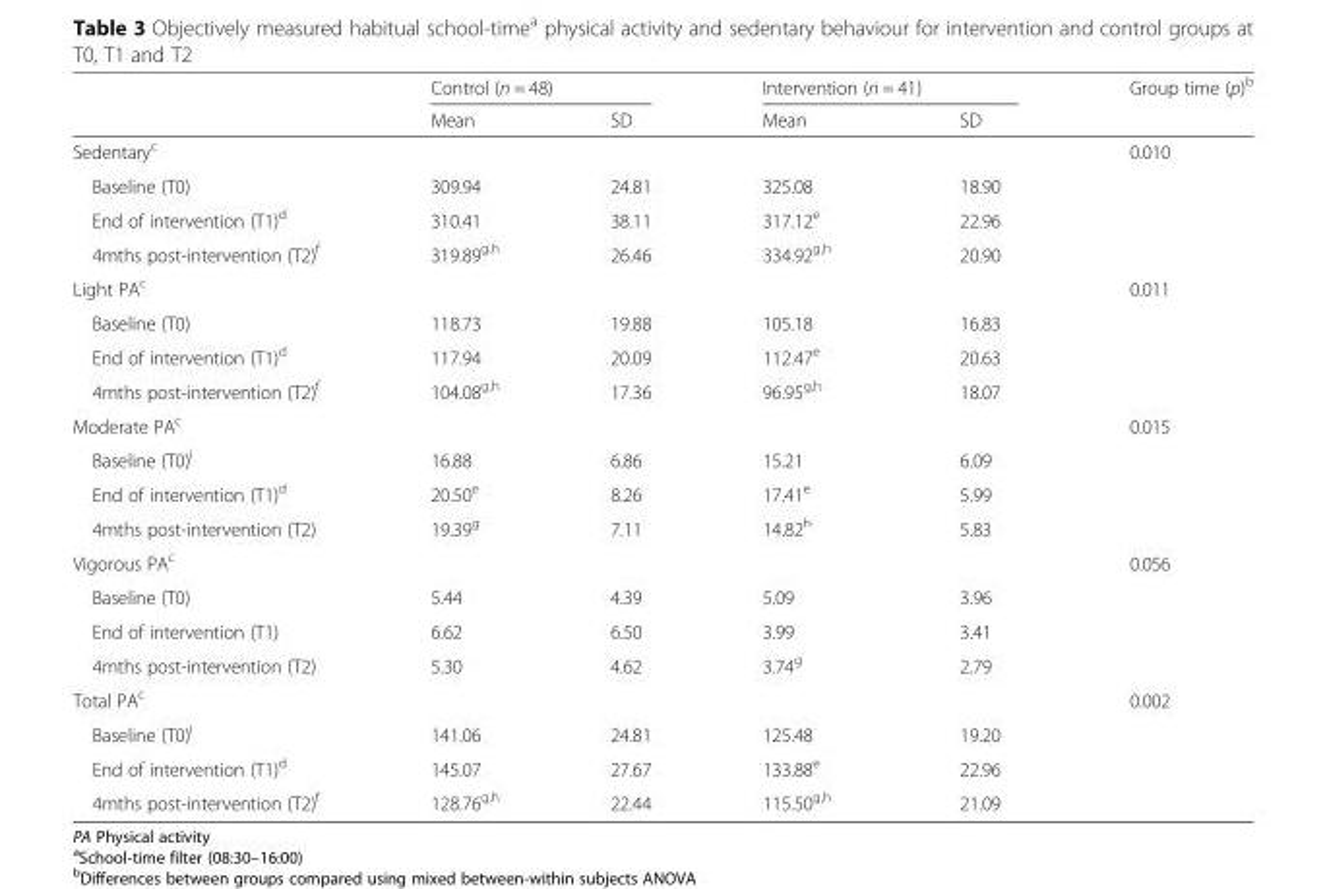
<table><thead><tr><td rowspan="2"></td><td colspan="2">Control (n = 48)</td><td colspan="2">Intervention (n = 41)</td><td rowspan="2">Group time (p)<sup>b</sup></td></tr><tr><td>Mean</td><td>SD</td><td>Mean</td><td>SD</td></tr></thead><tbody><tr><td colspan="5">Sedentary<sup>c</sup></td><td>0.010</td></tr><tr><td>Baseline (T0)</td><td>309.94</td><td>24.81</td><td>325.08</td><td>18.90</td><td></td></tr><tr><td>End of intervention (T1)<sup>d</sup></td><td>310.41</td><td>38.11</td><td>317.12<sup>e</sup></td><td>22.96</td><td></td></tr><tr><td>4mths post-intervention (T2)<sup>f</sup></td><td>319.89<sup>g,h</sup></td><td>26.46</td><td>334.92<sup>g,h</sup></td><td>20.90</td><td></td></tr><tr><td colspan="5">Light PA<sup>c</sup></td><td>0.011</td></tr><tr><td>Baseline (T0)</td><td>118.73</td><td>19.88</td><td>105.18</td><td>16.83</td><td></td></tr><tr><td>End of intervention (T1)<sup>d</sup></td><td>117.94</td><td>20.09</td><td>112.47<sup>e</sup></td><td>20.63</td><td></td></tr><tr><td>4mths post-intervention (T2)<sup>f</sup></td><td>104.08<sup>g,h</sup></td><td>17.36</td><td>96.95<sup>g,h</sup></td><td>18.07</td><td></td></tr><tr><td colspan="5">Moderate PA<sup>c</sup></td><td>0.015</td></tr><tr><td>Baseline (T0)<sup>i</sup></td><td>16.88</td><td>6.86</td><td>15.21</td><td>6.09</td><td></td></tr><tr><td>End of intervention (T1)<sup>d</sup></td><td>20.50<sup>e</sup></td><td>8.26</td><td>17.41<sup>e</sup></td><td>5.99</td><td></td></tr><tr><td>4mths post-intervention (T2)</td><td>19.39<sup>g</sup></td><td>7.11</td><td>14.82<sup>h</sup></td><td>5.83</td><td></td></tr><tr><td colspan="5">Vigorous PA<sup>c</sup></td><td>0.056</td></tr><tr><td>Baseline (T0)</td><td>5.44</td><td>4.39</td><td>5.09</td><td>3.96</td><td></td></tr><tr><td>End of intervention (T1)</td><td>6.62</td><td>6.50</td><td>3.99</td><td>3.41</td><td></td></tr><tr><td>4mths post-intervention (T2)</td><td>5.30</td><td>4.62</td><td>3.74<sup>g</sup></td><td>2.79</td><td></td></tr><tr><td colspan="5">Total PA<sup>c</sup></td><td>0.002</td></tr><tr><td>Baseline (T0)<sup>i</sup></td><td>141.06</td><td>24.81</td><td>125.48</td><td>19.20</td><td></td></tr><tr><td>End of intervention (T1)<sup>d</sup></td><td>145.07</td><td>27.67</td><td>133.88<sup>e</sup></td><td>22.96</td><td></td></tr><tr><td>4mths post-intervention (T2)<sup>f</sup></td><td>128.76<sup>g,h</sup></td><td>22.44</td><td>115.50<sup>g,h</sup></td><td>21.09</td><td></td></tr></tbody></table>